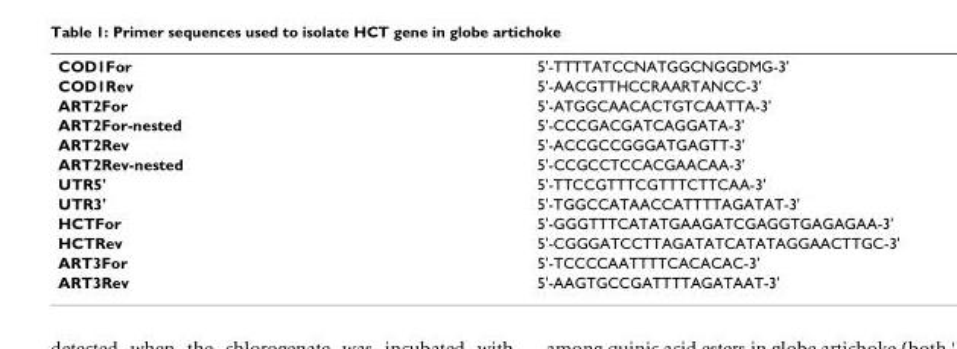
<table><tbody><tr><td>COD1For</td><td>5&#x27;-TTTTATCCNATGGCNGGDMG-3&#x27;</td></tr><tr><td>COD1Rev</td><td>5&#x27;-AACGTTHCCRAARTANCC-3&#x27;</td></tr><tr><td>ART2For</td><td>5&#x27;-ATGGCAACACTGTCAATTA-3&#x27;</td></tr><tr><td>ART2For-nested</td><td>5&#x27;-CCCGACGATCAGGATA-3&#x27;</td></tr><tr><td>ART2Rev</td><td>5&#x27;-ACCGCCGGGATGAGTT-3&#x27;</td></tr><tr><td>ART2Rev-nested</td><td>5&#x27;-CCGCCTCCACGAACAA-3&#x27;</td></tr><tr><td>UTR5&#x27;</td><td>5&#x27;-TTCCGTTTCGTTTCTTCAA-3&#x27;</td></tr><tr><td>UTR3&#x27;</td><td>5&#x27;-TGGCCATAACCATTTTAGATAT-3&#x27;</td></tr><tr><td>HCTFor</td><td>5&#x27;-GGGTTTCATATGAAGATCGAGGTGAGAGAA-3&#x27;</td></tr><tr><td>HCTRev</td><td>5&#x27;-CGGGATCCTTAGATATCATATAGGAACTTGC-3&#x27;</td></tr><tr><td>ART3For</td><td>5&#x27;-TCCCCAATTTTCACACAC-3&#x27;</td></tr><tr><td>ART3Rev</td><td>5&#x27;-AAGTGCCGATTTTAGATAAT-3&#x27;</td></tr></tbody></table>